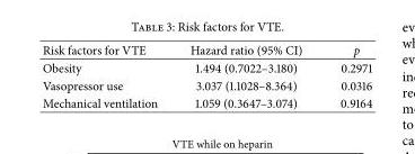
<table><thead><tr><td>Risk factors for VTE</td><td>Hazard ratio (95% CI)</td><td>p</td></tr></thead><tbody><tr><td>Obesity</td><td>1.494 (0.7022–3.180)</td><td>0.2971</td></tr><tr><td>Vasopressor use</td><td>3.037 (1.1028–8.364)</td><td>0.0316</td></tr><tr><td>Mechanical ventilation</td><td>1.059 (0.3647–3.074)</td><td>0.9164</td></tr></tbody></table>